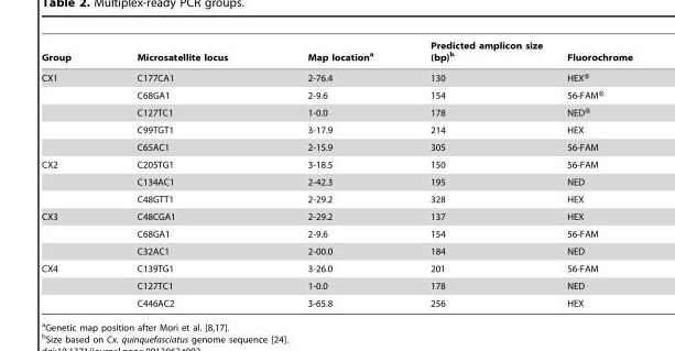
<table><thead><tr><td>Group</td><td>Microsatellite locus</td><td>Map location<sup>a</sup></td><td>Predicted amplicon size (bp)<sup>b</sup></td><td>Fluorochrome</td></tr></thead><tbody><tr><td rowspan="5">CX1</td><td>C177CA1</td><td>2-76.4</td><td>130</td><td>HEX®</td></tr><tr><td>C68GA1</td><td>2-9.6</td><td>154</td><td>56-FAM®</td></tr><tr><td>C127TC1</td><td>1-0.0</td><td>178</td><td>NED®</td></tr><tr><td>C99TGT1</td><td>3-17.9</td><td>214</td><td>HEX</td></tr><tr><td>C65AC1</td><td>2-15.9</td><td>305</td><td>56-FAM</td></tr><tr><td rowspan="3">CX2</td><td>C205TG1</td><td>3-18.5</td><td>150</td><td>56-FAM</td></tr><tr><td>C134AC1</td><td>2-42.3</td><td>195</td><td>NED</td></tr><tr><td>C48GTT1</td><td>2-29.2</td><td>328</td><td>HEX</td></tr><tr><td rowspan="3">CX3</td><td>C48CGA1</td><td>2-29.2</td><td>137</td><td>HEX</td></tr><tr><td>C68GA1</td><td>2-9.6</td><td>154</td><td>56-FAM</td></tr><tr><td>C32AC1</td><td>2-00.0</td><td>184</td><td>NED</td></tr><tr><td rowspan="3">CX4</td><td>C139TG1</td><td>3-26.0</td><td>201</td><td>56-FAM</td></tr><tr><td>C127TC1</td><td>1-0.0</td><td>178</td><td>NED</td></tr><tr><td>C446AC2</td><td>3-65.8</td><td>256</td><td>HEX</td></tr></tbody></table>